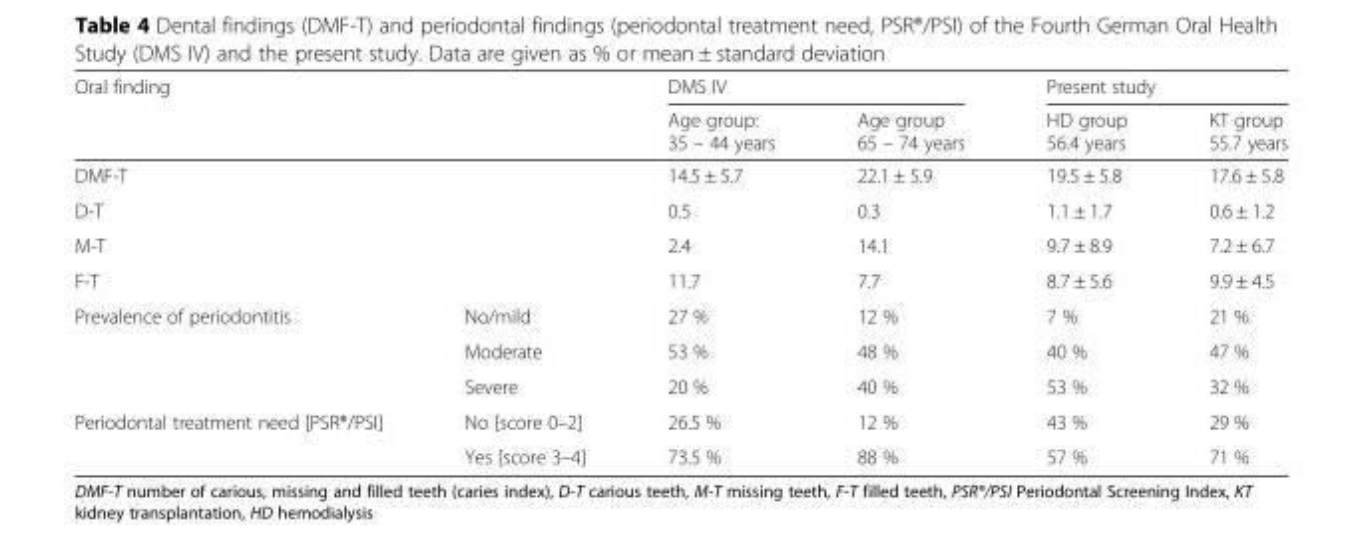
<table><thead><tr><td rowspan="2" colspan="2">Oral finding</td><td colspan="2">DMS IV</td><td colspan="2">Present study</td></tr><tr><td>Age group: 35 – 44 years</td><td>Age group 65 – 74 years</td><td>HD group 56.4 years</td><td>KT group 55.7 years</td></tr></thead><tbody><tr><td colspan="2">DMF-T</td><td>14.5 ± 5.7</td><td>22.1 ± 5.9</td><td>19.5 ± 5.8</td><td>17.6 ± 5.8</td></tr><tr><td colspan="2">D-T</td><td>0.5</td><td>0.3</td><td>1.1 ± 1.7</td><td>0.6 ± 1.2</td></tr><tr><td colspan="2">M-T</td><td>2.4</td><td>14.1</td><td>9.7 ± 8.9</td><td>7.2 ± 6.7</td></tr><tr><td colspan="2">F-T</td><td>11.7</td><td>7.7</td><td>8.7 ± 5.6</td><td>9.9 ± 4.5</td></tr><tr><td rowspan="3">Prevalence of periodontitis</td><td>No/mild</td><td>27 %</td><td>12 %</td><td>7 %</td><td>21 %</td></tr><tr><td>Moderate</td><td>53 %</td><td>48 %</td><td>40 %</td><td>47 %</td></tr><tr><td>Severe</td><td>20 %</td><td>40 %</td><td>53 %</td><td>32 %</td></tr><tr><td rowspan="2">Periodontal treatment need [PSR®/PSI]</td><td>No [score 0–2]</td><td>26.5 %</td><td>12 %</td><td>43 %</td><td>29 %</td></tr><tr><td>Yes [score 3–4]</td><td>73.5 %</td><td>88 %</td><td>57 %</td><td>71 %</td></tr></tbody></table>